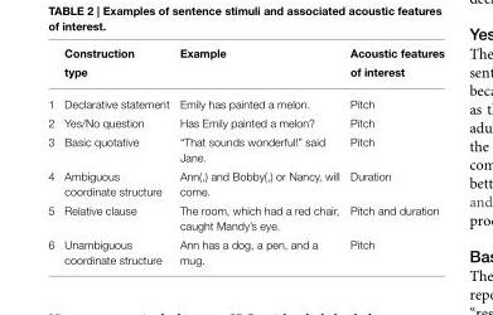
<table><thead><tr><td></td><td>Construction type</td><td>Example</td><td>Acoustic features of interest</td></tr></thead><tbody><tr><td>1</td><td>Declarative statement</td><td>Emily has painted a melon.</td><td>Pitch</td></tr><tr><td>2</td><td>Yes/No question</td><td>Has Emily painted a melon?</td><td>Pitch</td></tr><tr><td>3</td><td>Basic quotative</td><td>“That sounds wonderful!” said Jane.</td><td>Pitch</td></tr><tr><td>4</td><td>Ambiguous coordinate structure</td><td>Ann(,) and Bobby(,) or Nancy, will come.</td><td>Duration</td></tr><tr><td>5</td><td>Relative clause</td><td>The room, which had a red chair, caught Mandy’s eye.</td><td>Pitch and duration</td></tr><tr><td>6</td><td>Unambiguous coordinate structure</td><td>Ann has a dog, a pen, and a mug.</td><td>Pitch</td></tr></tbody></table>